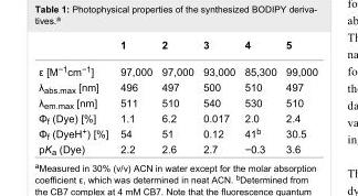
<table><thead><tr><td></td><td>1</td><td>2</td><td>3</td><td>4</td><td>5</td></tr></thead><tbody><tr><td>ε [M<sup>−1</sup>cm<sup>−1</sup>]</td><td>97,000</td><td>97,000</td><td>93,000</td><td>85,300</td><td>99,000</td></tr><tr><td>λ<sub>abs.max</sub> [nm]</td><td>496</td><td>497</td><td>500</td><td>510</td><td>497</td></tr><tr><td>λ<sub>em.max</sub> [nm]</td><td>511</td><td>510</td><td>540</td><td>530</td><td>510</td></tr><tr><td>Φ<sub>f</sub> (Dye) [%]</td><td>1.1</td><td>6.2</td><td>0.017</td><td>2.0</td><td>2.4</td></tr><tr><td>Φ<sub>f</sub> (DyeH<sup>+</sup>) [%]</td><td>54</td><td>51</td><td>0.12</td><td>41<sup>b</sup></td><td>30.5</td></tr><tr><td>pK<sub>a</sub> (Dye)</td><td>2.2</td><td>2.6</td><td>2.7</td><td>−0.3</td><td>3.6</td></tr></tbody></table>